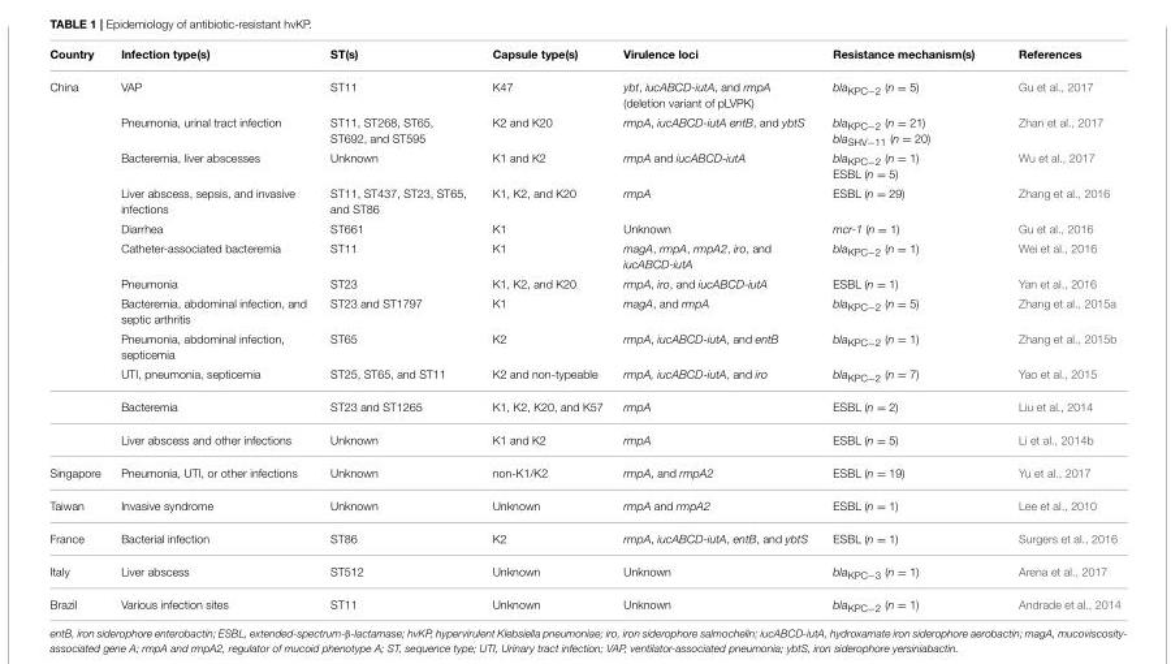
<table><thead><tr><td>Country</td><td>Infection type(s)</td><td>ST(s)</td><td>Capsule type(s)</td><td>Virulence loci</td><td>Resistance mechanism(s)</td><td>References</td></tr></thead><tbody><tr><td rowspan="12">China</td><td>VAP</td><td>ST11</td><td>K47</td><td>ybt, iucABCD-iutA, and rmpA (deletion variant of pLVPK)</td><td>bla<sub>KPC−2</sub> (n = 5)</td><td>Gu et al., 2017</td></tr><tr><td>Pneumonia, urinal tract infection</td><td>ST11, ST268, ST65, ST692, and ST595</td><td>K2 and K20</td><td>rmpA, iucABCD-iutA entB, and ybtS</td><td>bla<sub>KPC−2</sub> (n = 21) bla<sub>SHV−11</sub> (n = 20)</td><td>Zhan et al., 2017</td></tr><tr><td>Bacteremia, liver abscesses</td><td>Unknown</td><td>K1 and K2</td><td>rmpA and iucABCD-iutA</td><td>bla<sub>KPC−2</sub> (n = 1) ESBL (n = 5)</td><td>Wu et al., 2017</td></tr><tr><td>Liver abscess, sepsis, and invasive infections</td><td>ST11, ST437, ST23, ST65, and ST86</td><td>K1, K2, and K20</td><td>rmpA</td><td>ESBL (n = 29)</td><td>Zhang et al., 2016</td></tr><tr><td>Diarrhea</td><td>ST661</td><td>K1</td><td>Unknown</td><td>mcr-1 (n = 1)</td><td>Gu et al., 2016</td></tr><tr><td>Catheter-associated bacteremia</td><td>ST11</td><td>K1</td><td>magA, rmpA, rmpA2, iro, and iucABCD-iutA</td><td>bla<sub>KPC−2</sub> (n = 1)</td><td>Wei et al., 2016</td></tr><tr><td>Pneumonia</td><td>ST23</td><td>K1, K2, and K20</td><td>rmpA, iro, and iucABCD-iutA</td><td>ESBL (n = 1)</td><td>Yan et al., 2016</td></tr><tr><td>Bacteremia, abdominal infection, and septic arthritis</td><td>ST23 and ST1797</td><td>K1</td><td>magA, and rmpA</td><td>bla<sub>KPC−2</sub> (n = 5)</td><td>Zhang et al., 2015a</td></tr><tr><td>Pneumonia, abdominal infection, septicemia</td><td>ST65</td><td>K2</td><td>rmpA, iucABCD-iutA, and entB</td><td>bla<sub>KPC−2</sub> (n = 1)</td><td>Zhang et al., 2015b</td></tr><tr><td>UTI, pneumonia, septicemia</td><td>ST25, ST65, and ST11</td><td>K2 and non-typeable</td><td>rmpA, iucABCD-iutA, and iro</td><td>bla<sub>KPC−2</sub> (n = 7)</td><td>Yao et al., 2015</td></tr><tr><td>Bacteremia</td><td>ST23 and ST1265</td><td>K1, K2, K20, and K57</td><td>rmpA</td><td>ESBL (n = 2)</td><td>Liu et al., 2014</td></tr><tr><td>Liver abscess and other infections</td><td>Unknown</td><td>K1 and K2</td><td>rmpA</td><td>ESBL (n = 5)</td><td>Li et al., 2014b</td></tr><tr><td>Singapore</td><td>Pneumonia, UTI, or other infections</td><td>Unknown</td><td>non-K1/K2</td><td>rmpA, and rmpA2</td><td>ESBL (n = 19)</td><td>Yu et al., 2017</td></tr><tr><td>Taiwan</td><td>Invasive syndrome</td><td>Unknown</td><td>Unknown</td><td>rmpA and rmpA2</td><td>ESBL (n = 1)</td><td>Lee et al., 2010</td></tr><tr><td>France</td><td>Bacterial infection</td><td>ST86</td><td>K2</td><td>rmpA, iucABCD-iutA, entB, and ybtS</td><td>ESBL (n = 1)</td><td>Surgers et al., 2016</td></tr><tr><td>Italy</td><td>Liver abscess</td><td>ST512</td><td>Unknown</td><td>Unknown</td><td>bla<sub>KPC−3</sub> (n = 1)</td><td>Arena et al., 2017</td></tr><tr><td>Brazil</td><td>Various infection sites</td><td>ST11</td><td>Unknown</td><td>Unknown</td><td>bla<sub>KPC−2</sub> (n = 1)</td><td>Andrade et al., 2014</td></tr></tbody></table>